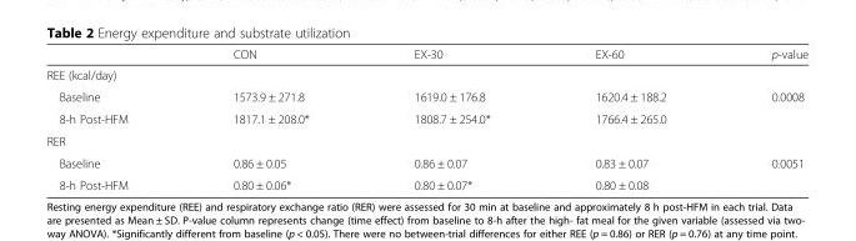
<table><thead><tr><td></td><td>CON</td><td>EX-30</td><td>EX-60</td><td>p-value</td></tr></thead><tbody><tr><td colspan="5">REE (kcal/day)</td></tr><tr><td>Baseline</td><td>1573.9 ± 271.8</td><td>1619.0 ± 176.8</td><td>1620.4 ± 188.2</td><td rowspan="2">0.0008</td></tr><tr><td>8-h Post-HFM</td><td>1817.1 ± 208.0*</td><td>1808.7 ± 254.0*</td><td>1766.4 ± 265.0</td></tr><tr><td colspan="5">RER</td></tr><tr><td>Baseline</td><td>0.86 ± 0.05</td><td>0.86 ± 0.07</td><td>0.83 ± 0.07</td><td rowspan="2">0.0051</td></tr><tr><td>8-h Post-HFM</td><td>0.80 ± 0.06*</td><td>0.80 ± 0.07*</td><td>0.80 ± 0.08</td></tr></tbody></table>